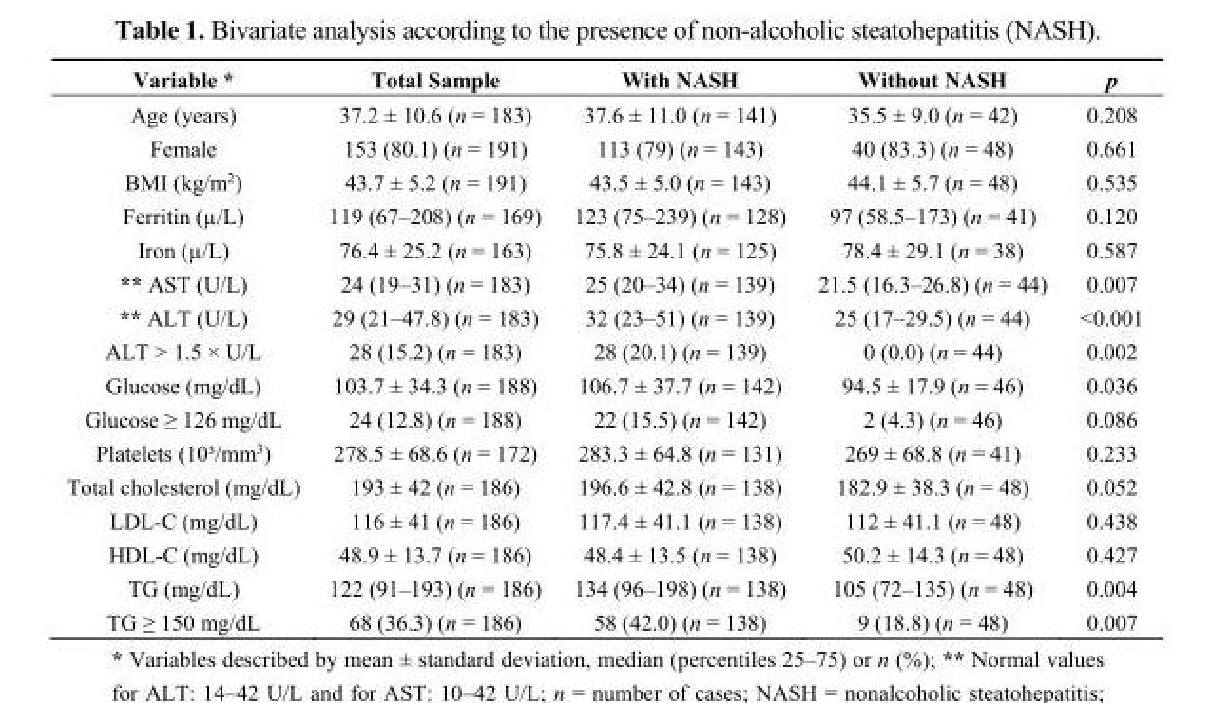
<table><thead><tr><td>Variable *</td><td>Total Sample</td><td>With NASH</td><td>Without NASH</td><td>p</td></tr></thead><tbody><tr><td>Age (years)</td><td>37.2 ± 10.6 (n = 183)</td><td>37.6 ± 11.0 (n = 141)</td><td>35.5 ± 9.0 (n = 42)</td><td>0.208</td></tr><tr><td>Female</td><td>153 (80.1) (n = 191)</td><td>113 (79) (n = 143)</td><td>40 (83.3) (n = 48)</td><td>0.661</td></tr><tr><td>BMI (kg/m<sup>2</sup>)</td><td>43.7 ± 5.2 (n = 191)</td><td>43.5 ± 5.0 (n = 143)</td><td>44.1 ± 5.7 (n = 48)</td><td>0.535</td></tr><tr><td>Ferritin (µ/L)</td><td>119 (67–208) (n = 169)</td><td>123 (75–239) (n = 128)</td><td>97 (58.5–173) (n = 41)</td><td>0.120</td></tr><tr><td>Iron (µ/L)</td><td>76.4 ± 25.2 (n = 163)</td><td>75.8 ± 24.1 (n = 125)</td><td>78.4 ± 29.1 (n = 38)</td><td>0.587</td></tr><tr><td>** AST (U/L)</td><td>24 (19–31) (n = 183)</td><td>25 (20–34) (n = 139)</td><td>21.5 (16.3–26.8) (n = 44)</td><td>0.007</td></tr><tr><td>** ALT (U/L)</td><td>29 (21–47.8) (n = 183)</td><td>32 (23–51) (n = 139)</td><td>25 (17–29.5) (n = 44)</td><td>&lt;0.001</td></tr><tr><td>ALT &gt; 1.5 × U/L</td><td>28 (15.2) (n = 183)</td><td>28 (20.1) (n = 139)</td><td>0 (0.0) (n = 44)</td><td>0.002</td></tr><tr><td>Glucose (mg/dL)</td><td>103.7 ± 34.3 (n = 188)</td><td>106.7 ± 37.7 (n = 142)</td><td>94.5 ± 17.9 (n = 46)</td><td>0.036</td></tr><tr><td>Glucose ≥ 126 mg/dL</td><td>24 (12.8) (n = 188)</td><td>22 (15.5) (n = 142)</td><td>2 (4.3) (n = 46)</td><td>0.086</td></tr><tr><td>Platelets (10³/mm<sup>3</sup>)</td><td>278.5 ± 68.6 (n = 172)</td><td>283.3 ± 64.8 (n = 131)</td><td>269 ± 68.8 (n = 41)</td><td>0.233</td></tr><tr><td>Total cholesterol (mg/dL)</td><td>193 ± 42 (n = 186)</td><td>196.6 ± 42.8 (n = 138)</td><td>182.9 ± 38.3 (n = 48)</td><td>0.052</td></tr><tr><td>LDL-C (mg/dL)</td><td>116 ± 41 (n = 186)</td><td>117.4 ± 41.1 (n = 138)</td><td>112 ± 41.1 (n = 48)</td><td>0.438</td></tr><tr><td>HDL-C (mg/dL)</td><td>48.9 ± 13.7 (n = 186)</td><td>48.4 ± 13.5 (n = 138)</td><td>50.2 ± 14.3 (n = 48)</td><td>0.427</td></tr><tr><td>TG (mg/dL)</td><td>122 (91–193) (n = 186)</td><td>134 (96–198) (n = 138)</td><td>105 (72–135) (n = 48)</td><td>0.004</td></tr><tr><td>TG ≥ 150 mg/dL</td><td>68 (36.3) (n = 186)</td><td>58 (42.0) (n = 138)</td><td>9 (18.8) (n = 48)</td><td>0.007</td></tr></tbody></table>